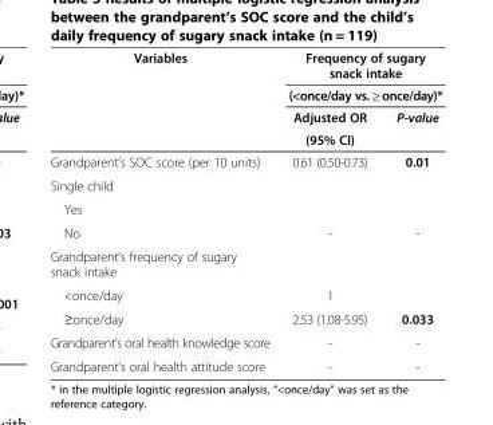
<table><thead><tr><td rowspan="4">Variables</td><td rowspan="2" colspan="2">Frequency of sugary snack intake (&lt;once/day vs. ≥ once/day)*</td></tr><tr></tr><tr><td rowspan="2">Adjusted OR (95% CI)</td><td rowspan="2">P-value</td></tr><tr></tr></thead><tbody><tr><td>Grandparent’s SOC score (per 10 units)</td><td>0.61 (0.50-0.73)</td><td>0.01</td></tr><tr><td colspan="3">Single child</td></tr><tr><td colspan="3">Yes</td></tr><tr><td>No</td><td>-</td><td>-</td></tr><tr><td colspan="3">Grandparent’s frequency of sugary snack intake</td></tr><tr><td>&lt;once/day</td><td>1</td><td></td></tr><tr><td>≥once/day</td><td>2.53 (1.08-5.95)</td><td>0.033</td></tr><tr><td>Grandparent’s oral health knowledge score</td><td>-</td><td>-</td></tr><tr><td>Grandparent’s oral health attitude score</td><td>-</td><td>-</td></tr></tbody></table>